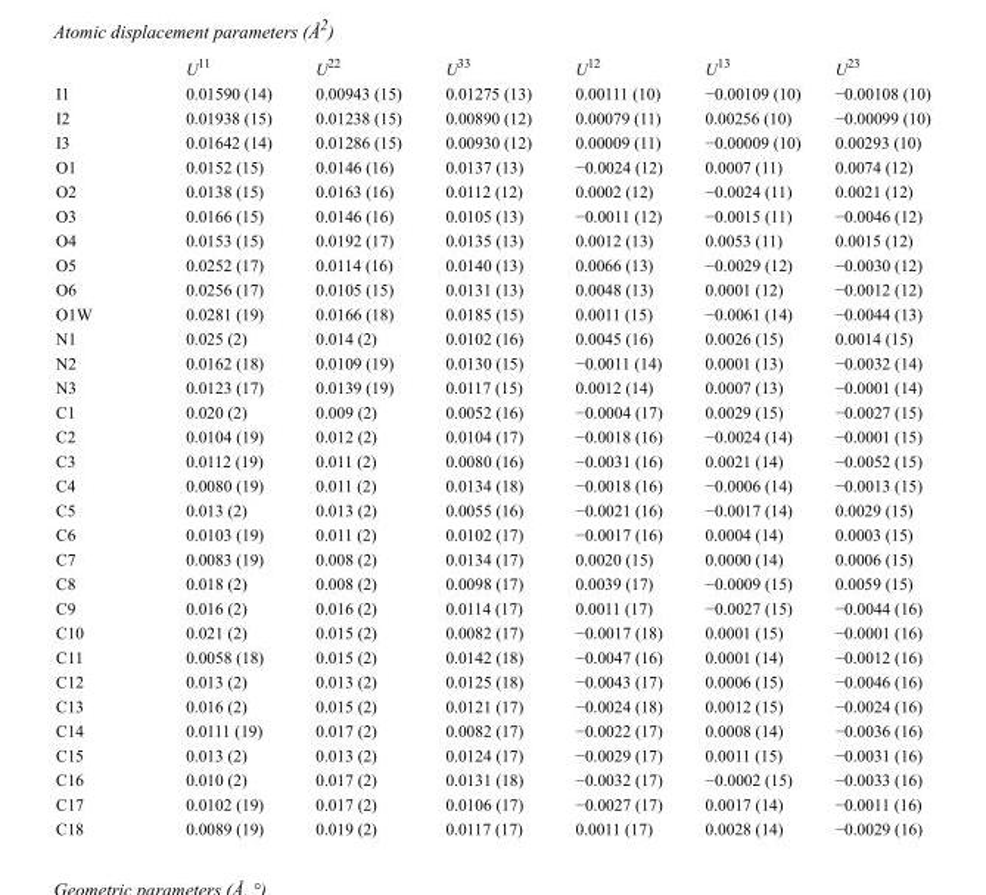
<table><thead><tr><td></td><td>U<sup>11</sup></td><td>U<sup>22</sup></td><td>U<sup>33</sup></td><td>U<sup>12</sup></td><td>U<sup>13</sup></td><td>U<sup>23</sup></td></tr></thead><tbody><tr><td>I1</td><td>0.01590 (14)</td><td>0.00943 (15)</td><td>0.01275 (13)</td><td>0.00111 (10)</td><td>−0.00109 (10)</td><td>−0.00108 (10)</td></tr><tr><td>I2</td><td>0.01938 (15)</td><td>0.01238 (15)</td><td>0.00890 (12)</td><td>0.00079 (11)</td><td>0.00256 (10)</td><td>−0.00099 (10)</td></tr><tr><td>I3</td><td>0.01642 (14)</td><td>0.01286 (15)</td><td>0.00930 (12)</td><td>0.00009 (11)</td><td>−0.00009 (10)</td><td>0.00293 (10)</td></tr><tr><td>O1</td><td>0.0152 (15)</td><td>0.0146 (16)</td><td>0.0137 (13)</td><td>−0.0024 (12)</td><td>0.0007 (11)</td><td>0.0074 (12)</td></tr><tr><td>O2</td><td>0.0138 (15)</td><td>0.0163 (16)</td><td>0.0112 (12)</td><td>0.0002 (12)</td><td>−0.0024 (11)</td><td>0.0021 (12)</td></tr><tr><td>O3</td><td>0.0166 (15)</td><td>0.0146 (16)</td><td>0.0105 (13)</td><td>−0.0011 (12)</td><td>−0.0015 (11)</td><td>−0.0046 (12)</td></tr><tr><td>O4</td><td>0.0153 (15)</td><td>0.0192 (17)</td><td>0.0135 (13)</td><td>0.0012 (13)</td><td>0.0053 (11)</td><td>0.0015 (12)</td></tr><tr><td>O5</td><td>0.0252 (17)</td><td>0.0114 (16)</td><td>0.0140 (13)</td><td>0.0066 (13)</td><td>−0.0029 (12)</td><td>−0.0030 (12)</td></tr><tr><td>O6</td><td>0.0256 (17)</td><td>0.0105 (15)</td><td>0.0131 (13)</td><td>0.0048 (13)</td><td>0.0001 (12)</td><td>−0.0012 (12)</td></tr><tr><td>O1W</td><td>0.0281 (19)</td><td>0.0166 (18)</td><td>0.0185 (15)</td><td>0.0011 (15)</td><td>−0.0061 (14)</td><td>−0.0044 (13)</td></tr><tr><td>N1</td><td>0.025 (2)</td><td>0.014 (2)</td><td>0.0102 (16)</td><td>0.0045 (16)</td><td>0.0026 (15)</td><td>0.0014 (15)</td></tr><tr><td>N2</td><td>0.0162 (18)</td><td>0.0109 (19)</td><td>0.0130 (15)</td><td>−0.0011 (14)</td><td>0.0001 (13)</td><td>−0.0032 (14)</td></tr><tr><td>N3</td><td>0.0123 (17)</td><td>0.0139 (19)</td><td>0.0117 (15)</td><td>0.0012 (14)</td><td>0.0007 (13)</td><td>−0.0001 (14)</td></tr><tr><td>C1</td><td>0.020 (2)</td><td>0.009 (2)</td><td>0.0052 (16)</td><td>−0.0004 (17)</td><td>0.0029 (15)</td><td>−0.0027 (15)</td></tr><tr><td>C2</td><td>0.0104 (19)</td><td>0.012 (2)</td><td>0.0104 (17)</td><td>−0.0018 (16)</td><td>−0.0024 (14)</td><td>−0.0001 (15)</td></tr><tr><td>C3</td><td>0.0112 (19)</td><td>0.011 (2)</td><td>0.0080 (16)</td><td>−0.0031 (16)</td><td>0.0021 (14)</td><td>−0.0052 (15)</td></tr><tr><td>C4</td><td>0.0080 (19)</td><td>0.011 (2)</td><td>0.0134 (18)</td><td>−0.0018 (16)</td><td>−0.0006 (14)</td><td>−0.0013 (15)</td></tr><tr><td>C5</td><td>0.013 (2)</td><td>0.013 (2)</td><td>0.0055 (16)</td><td>−0.0021 (16)</td><td>−0.0017 (14)</td><td>0.0029 (15)</td></tr><tr><td>C6</td><td>0.0103 (19)</td><td>0.011 (2)</td><td>0.0102 (17)</td><td>−0.0017 (16)</td><td>0.0004 (14)</td><td>0.0003 (15)</td></tr><tr><td>C7</td><td>0.0083 (19)</td><td>0.008 (2)</td><td>0.0134 (17)</td><td>0.0020 (15)</td><td>0.0000 (14)</td><td>0.0006 (15)</td></tr><tr><td>C8</td><td>0.018 (2)</td><td>0.008 (2)</td><td>0.0098 (17)</td><td>0.0039 (17)</td><td>−0.0009 (15)</td><td>0.0059 (15)</td></tr><tr><td>C9</td><td>0.016 (2)</td><td>0.016 (2)</td><td>0.0114 (17)</td><td>0.0011 (17)</td><td>−0.0027 (15)</td><td>−0.0044 (16)</td></tr><tr><td>C10</td><td>0.021 (2)</td><td>0.015 (2)</td><td>0.0082 (17)</td><td>−0.0017 (18)</td><td>0.0001 (15)</td><td>−0.0001 (16)</td></tr><tr><td>C11</td><td>0.0058 (18)</td><td>0.015 (2)</td><td>0.0142 (18)</td><td>−0.0047 (16)</td><td>0.0001 (14)</td><td>−0.0012 (16)</td></tr><tr><td>C12</td><td>0.013 (2)</td><td>0.013 (2)</td><td>0.0125 (18)</td><td>−0.0043 (17)</td><td>0.0006 (15)</td><td>−0.0046 (16)</td></tr><tr><td>C13</td><td>0.016 (2)</td><td>0.015 (2)</td><td>0.0121 (17)</td><td>−0.0024 (18)</td><td>0.0012 (15)</td><td>−0.0024 (16)</td></tr><tr><td>C14</td><td>0.0111 (19)</td><td>0.017 (2)</td><td>0.0082 (17)</td><td>−0.0022 (17)</td><td>0.0008 (14)</td><td>−0.0036 (16)</td></tr><tr><td>C15</td><td>0.013 (2)</td><td>0.013 (2)</td><td>0.0124 (17)</td><td>−0.0029 (17)</td><td>0.0011 (15)</td><td>−0.0031 (16)</td></tr><tr><td>C16</td><td>0.010 (2)</td><td>0.017 (2)</td><td>0.0131 (18)</td><td>−0.0032 (17)</td><td>−0.0002 (15)</td><td>−0.0033 (16)</td></tr><tr><td>C17</td><td>0.0102 (19)</td><td>0.017 (2)</td><td>0.0106 (17)</td><td>−0.0027 (17)</td><td>0.0017 (14)</td><td>−0.0011 (16)</td></tr><tr><td>C18</td><td>0.0089 (19)</td><td>0.019 (2)</td><td>0.0117 (17)</td><td>0.0011 (17)</td><td>0.0028 (14)</td><td>−0.0029 (16)</td></tr></tbody></table>